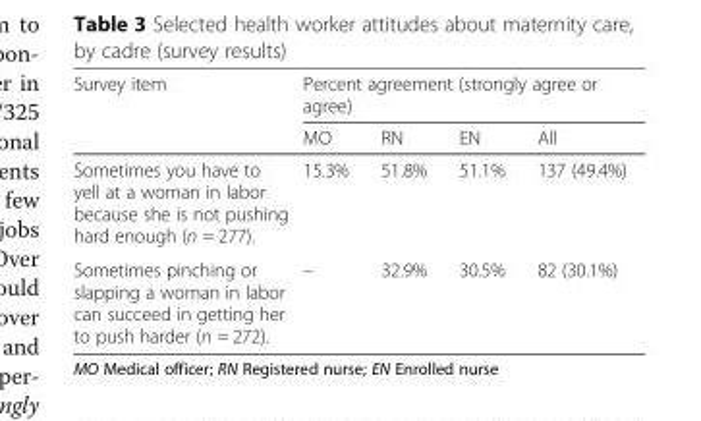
<table><thead><tr><td rowspan="2">Survey item</td><td colspan="4">Percent agreement (strongly agree or agree)</td></tr><tr><td>MO</td><td>RN</td><td>EN</td><td>All</td></tr></thead><tbody><tr><td>Sometimes you have to yell at a woman in labor because she is not pushing hard enough (n = 277).</td><td>15.3%</td><td>51.8%</td><td>51.1%</td><td>137 (49.4%)</td></tr><tr><td>Sometimes pinching or slapping a woman in labor can succeed in getting her to push harder (n = 272).</td><td>–</td><td>32.9%</td><td>30.5%</td><td>82 (30.1%)</td></tr></tbody></table>